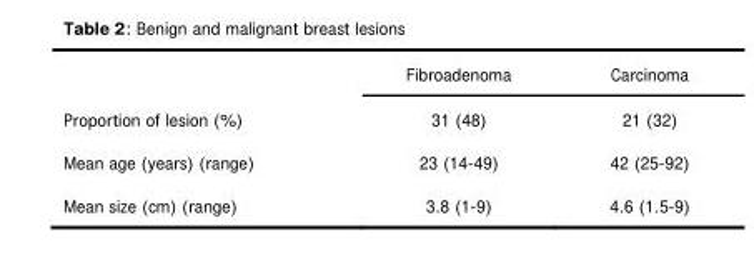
<table><thead><tr><td></td><td>Fibroadenoma</td><td>Carcinoma</td></tr></thead><tbody><tr><td>Proportion of lesion (%)</td><td>31 (48)</td><td>21 (32)</td></tr><tr><td>Mean age (years) (range)</td><td>23 (14-49)</td><td>42 (25-92)</td></tr><tr><td>Mean size (cm) (range)</td><td>3.8 (1-9)</td><td>4.6 (1.5-9)</td></tr></tbody></table>